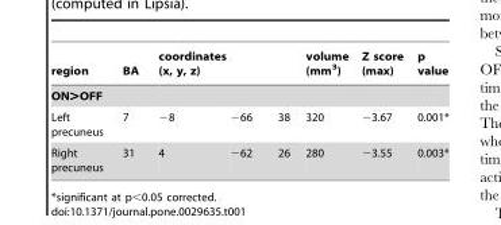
<table><thead><tr><td>region</td><td>BA</td><td colspan="3">coordinates (x, y, z)</td><td>volume (mm<sup>3</sup>)</td><td>Z score (max)</td><td>p value</td></tr><tr><td colspan="8">ON&gt;OFF</td></tr><tr><td>Left precuneus</td><td>7</td><td>−8</td><td>−66</td><td>38</td><td>320</td><td>−3.67</td><td>0.001*</td></tr></thead><tbody><tr><td>Right precuneus</td><td>31</td><td>4</td><td>−62</td><td>26</td><td>280</td><td>−3.55</td><td>0.003*</td></tr></tbody></table>